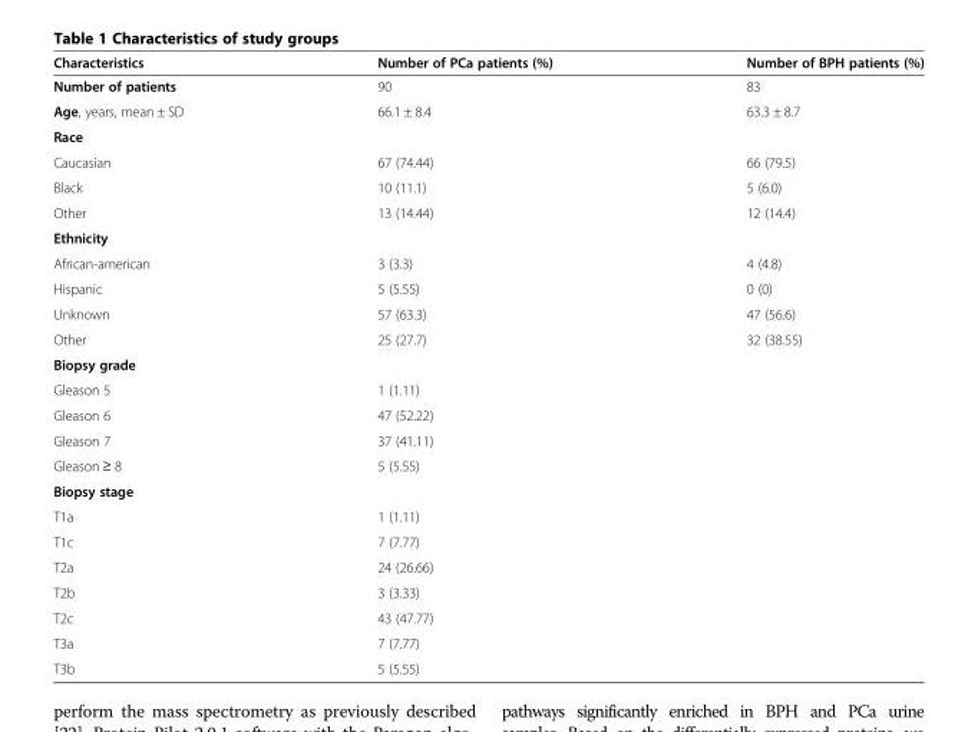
<table><thead><tr><td>Characteristics</td><td>Number of PCa patients (%)</td><td>Number of BPH patients (%)</td></tr></thead><tbody><tr><td>Number of patients</td><td>90</td><td>83</td></tr><tr><td>Age, years, mean ± SD</td><td>66.1 ± 8.4</td><td>63.3 ± 8.7</td></tr><tr><td colspan="3">Race</td></tr><tr><td>Caucasian</td><td>67 (74.44)</td><td>66 (79.5)</td></tr><tr><td>Black</td><td>10 (11.1)</td><td>5 (6.0)</td></tr><tr><td>Other</td><td>13 (14.44)</td><td>12 (14.4)</td></tr><tr><td colspan="3">Ethnicity</td></tr><tr><td>African-american</td><td>3 (3.3)</td><td>4 (4.8)</td></tr><tr><td>Hispanic</td><td>5 (5.55)</td><td>0 (0)</td></tr><tr><td>Unknown</td><td>57 (63.3)</td><td>47 (56.6)</td></tr><tr><td>Other</td><td>25 (27.7)</td><td>32 (38.55)</td></tr><tr><td colspan="3">Biopsy grade</td></tr><tr><td>Gleason 5</td><td>1 (1.11)</td><td></td></tr><tr><td>Gleason 6</td><td>47 (52.22)</td><td></td></tr><tr><td>Gleason 7</td><td>37 (41.11)</td><td></td></tr><tr><td>Gleason ≥ 8</td><td>5 (5.55)</td><td></td></tr><tr><td colspan="3">Biopsy stage</td></tr><tr><td>T1a</td><td>1 (1.11)</td><td></td></tr><tr><td>T1c</td><td>7 (7.77)</td><td></td></tr><tr><td>T2a</td><td>24 (26.66)</td><td></td></tr><tr><td>T2b</td><td>3 (3.33)</td><td></td></tr><tr><td>T2c</td><td>43 (47.77)</td><td></td></tr><tr><td>T3a</td><td>7 (7.77)</td><td></td></tr><tr><td>T3b</td><td>5 (5.55)</td><td></td></tr></tbody></table>